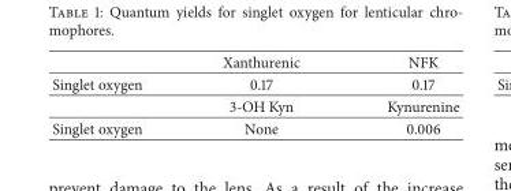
<table><thead><tr><td></td><td>Xanthurenic</td><td>NFK</td></tr></thead><tbody><tr><td rowspan="2">Singlet oxygen</td><td>0.17</td><td>0.17</td></tr><tr><td>3-OH Kyn</td><td>Kynurenine</td></tr><tr><td>Singlet oxygen</td><td>None</td><td>0.006</td></tr></tbody></table>